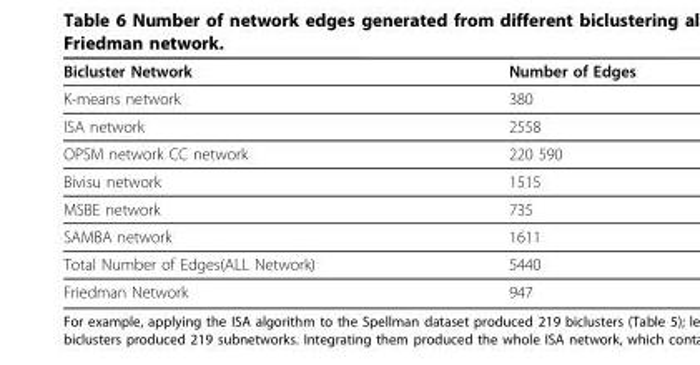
<table><thead><tr><td>Bicluster Network</td><td>Number of Edges</td></tr></thead><tbody><tr><td>K-means network</td><td>380</td></tr><tr><td>ISA network</td><td>2558</td></tr><tr><td>OPSM network CC network</td><td>220 590</td></tr><tr><td>Bivisu network</td><td>1515</td></tr><tr><td>MSBE network</td><td>735</td></tr><tr><td>SAMBA network</td><td>1611</td></tr><tr><td>Total Number of Edges(ALL Network)</td><td>5440</td></tr><tr><td>Friedman Network</td><td>947</td></tr></tbody></table>